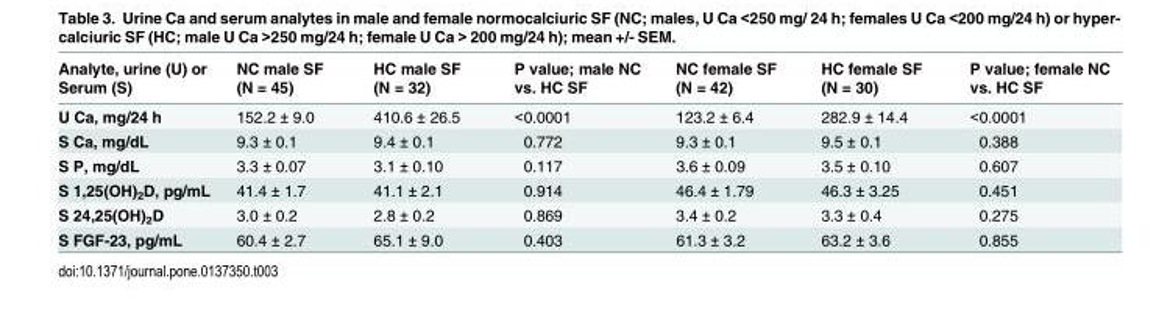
<table><thead><tr><td>Analyte, urine (U) or Serum (S)</td><td>NC male SF (N = 45)</td><td>HC male SF (N = 32)</td><td>P value; male NC vs. HC SF</td><td>NC female SF (N = 42)</td><td>HC female SF (N = 30)</td><td>P value; female NC vs. HC SF</td></tr></thead><tbody><tr><td>U Ca, mg/24 h</td><td>152.2 ± 9.0</td><td>410.6 ± 26.5</td><td>&lt;0.0001</td><td>123.2 ± 6.4</td><td>282.9 ± 14.4</td><td>&lt;0.0001</td></tr><tr><td>S Ca, mg/dL</td><td>9.3 ± 0.1</td><td>9.4 ± 0.1</td><td>0.772</td><td>9.3 ± 0.1</td><td>9.5 ± 0.1</td><td>0.388</td></tr><tr><td>S P, mg/dL</td><td>3.3 ± 0.07</td><td>3.1 ± 0.10</td><td>0.117</td><td>3.6 ± 0.09</td><td>3.5 ± 0.10</td><td>0.607</td></tr><tr><td>S 1,25(OH)<sub>2</sub>D, pg/mL</td><td>41.4 ± 1.7</td><td>41.1 ± 2.1</td><td>0.914</td><td>46.4 ± 1.79</td><td>46.3 ± 3.25</td><td>0.451</td></tr><tr><td>S 24,25(OH)<sub>2</sub>D</td><td>3.0 ± 0.2</td><td>2.8 ± 0.2</td><td>0.869</td><td>3.4 ± 0.2</td><td>3.3 ± 0.4</td><td>0.275</td></tr><tr><td>S FGF-23, pg/mL</td><td>60.4 ± 2.7</td><td>65.1 ± 9.0</td><td>0.403</td><td>61.3 ± 3.2</td><td>63.2 ± 3.6</td><td>0.855</td></tr></tbody></table>